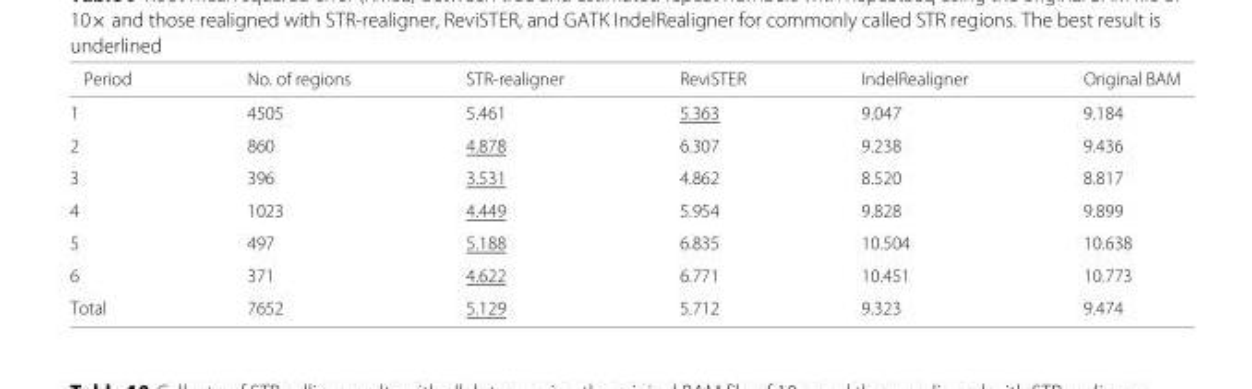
<table><thead><tr><td>Period</td><td>No. of regions</td><td>STR-realigner</td><td>ReviSTER</td><td>IndelRealigner</td><td>Original BAM</td></tr></thead><tbody><tr><td>1</td><td>4505</td><td>5.461</td><td>5.363</td><td>9.047</td><td>9.184</td></tr><tr><td>2</td><td>860</td><td>4.878</td><td>6.307</td><td>9.238</td><td>9.436</td></tr><tr><td>3</td><td>396</td><td>3.531</td><td>4.862</td><td>8.520</td><td>8.817</td></tr><tr><td>4</td><td>1023</td><td>4.449</td><td>5.954</td><td>9.828</td><td>9.899</td></tr><tr><td>5</td><td>497</td><td>5.188</td><td>6.835</td><td>10.504</td><td>10.638</td></tr><tr><td>6</td><td>371</td><td>4.622</td><td>6.771</td><td>10.451</td><td>10.773</td></tr><tr><td>Total</td><td>7652</td><td>5.129</td><td>5.712</td><td>9.323</td><td>9.474</td></tr></tbody></table>